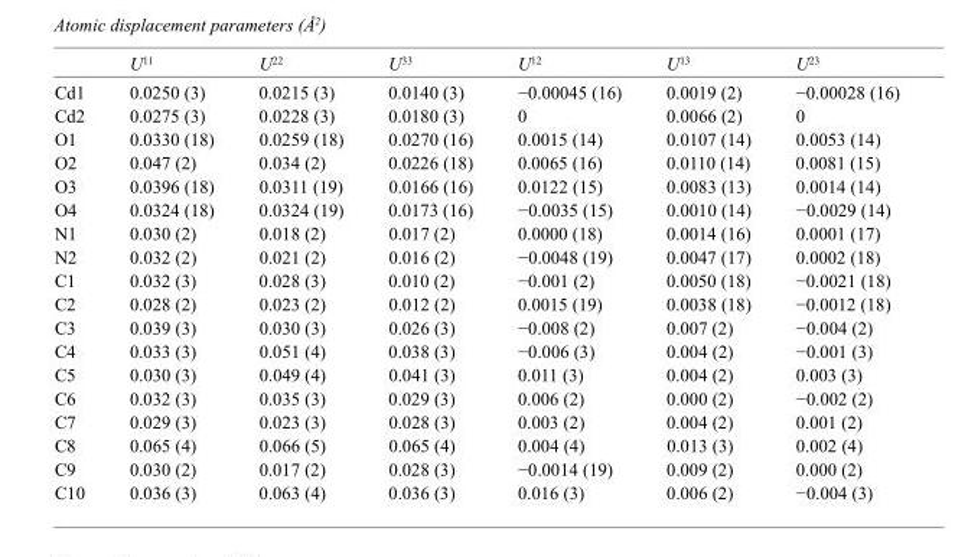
<table><thead><tr><td></td><td>U<sup>11</sup></td><td>U<sup>22</sup></td><td>U<sup>33</sup></td><td>U<sup>12</sup></td><td>U<sup>13</sup></td><td>U<sup>23</sup></td></tr></thead><tbody><tr><td>Cd1</td><td>0.0250 (3)</td><td>0.0215 (3)</td><td>0.0140 (3)</td><td>−0.00045 (16)</td><td>0.0019 (2)</td><td>−0.00028 (16)</td></tr><tr><td>Cd2</td><td>0.0275 (3)</td><td>0.0228 (3)</td><td>0.0180 (3)</td><td>0</td><td>0.0066 (2)</td><td>0</td></tr><tr><td>O1</td><td>0.0330 (18)</td><td>0.0259 (18)</td><td>0.0270 (16)</td><td>0.0015 (14)</td><td>0.0107 (14)</td><td>0.0053 (14)</td></tr><tr><td>O2</td><td>0.047 (2)</td><td>0.034 (2)</td><td>0.0226 (18)</td><td>0.0065 (16)</td><td>0.0110 (14)</td><td>0.0081 (15)</td></tr><tr><td>O3</td><td>0.0396 (18)</td><td>0.0311 (19)</td><td>0.0166 (16)</td><td>0.0122 (15)</td><td>0.0083 (13)</td><td>0.0014 (14)</td></tr><tr><td>O4</td><td>0.0324 (18)</td><td>0.0324 (19)</td><td>0.0173 (16)</td><td>−0.0035 (15)</td><td>0.0010 (14)</td><td>−0.0029 (14)</td></tr><tr><td>N1</td><td>0.030 (2)</td><td>0.018 (2)</td><td>0.017 (2)</td><td>0.0000 (18)</td><td>0.0014 (16)</td><td>0.0001 (17)</td></tr><tr><td>N2</td><td>0.032 (2)</td><td>0.021 (2)</td><td>0.016 (2)</td><td>−0.0048 (19)</td><td>0.0047 (17)</td><td>0.0002 (18)</td></tr><tr><td>C1</td><td>0.032 (3)</td><td>0.028 (3)</td><td>0.010 (2)</td><td>−0.001 (2)</td><td>0.0050 (18)</td><td>−0.0021 (18)</td></tr><tr><td>C2</td><td>0.028 (2)</td><td>0.023 (2)</td><td>0.012 (2)</td><td>0.0015 (19)</td><td>0.0038 (18)</td><td>−0.0012 (18)</td></tr><tr><td>C3</td><td>0.039 (3)</td><td>0.030 (3)</td><td>0.026 (3)</td><td>−0.008 (2)</td><td>0.007 (2)</td><td>−0.004 (2)</td></tr><tr><td>C4</td><td>0.033 (3)</td><td>0.051 (4)</td><td>0.038 (3)</td><td>−0.006 (3)</td><td>0.004 (2)</td><td>−0.001 (3)</td></tr><tr><td>C5</td><td>0.030 (3)</td><td>0.049 (4)</td><td>0.041 (3)</td><td>0.011 (3)</td><td>0.004 (2)</td><td>0.003 (3)</td></tr><tr><td>C6</td><td>0.032 (3)</td><td>0.035 (3)</td><td>0.029 (3)</td><td>0.006 (2)</td><td>0.000 (2)</td><td>−0.002 (2)</td></tr><tr><td>C7</td><td>0.029 (3)</td><td>0.023 (3)</td><td>0.028 (3)</td><td>0.003 (2)</td><td>0.004 (2)</td><td>0.001 (2)</td></tr><tr><td>C8</td><td>0.065 (4)</td><td>0.066 (5)</td><td>0.065 (4)</td><td>0.004 (4)</td><td>0.013 (3)</td><td>0.002 (4)</td></tr><tr><td>C9</td><td>0.030 (2)</td><td>0.017 (2)</td><td>0.028 (3)</td><td>−0.0014 (19)</td><td>0.009 (2)</td><td>0.000 (2)</td></tr><tr><td>C10</td><td>0.036 (3)</td><td>0.063 (4)</td><td>0.036 (3)</td><td>0.016 (3)</td><td>0.006 (2)</td><td>−0.004 (3)</td></tr></tbody></table>